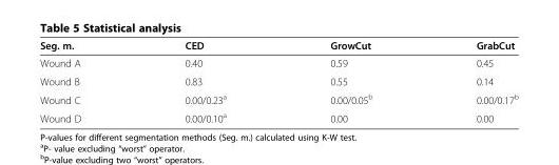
<table><thead><tr><td>Seg. m.</td><td>CED</td><td>GrowCut</td><td>GrabCut</td></tr></thead><tbody><tr><td>Wound A</td><td>0.40</td><td>0.59</td><td>0.45</td></tr><tr><td>Wound B</td><td>0.83</td><td>0.55</td><td>0.14</td></tr><tr><td>Wound C</td><td>0.00/0.23<sup>a</sup></td><td>0.00/0.05<sup>b</sup></td><td>0.00/0.17<sup>b</sup></td></tr><tr><td>Wound D</td><td>0.00/0.10<sup>a</sup></td><td>0.00</td><td>0.00</td></tr></tbody></table>